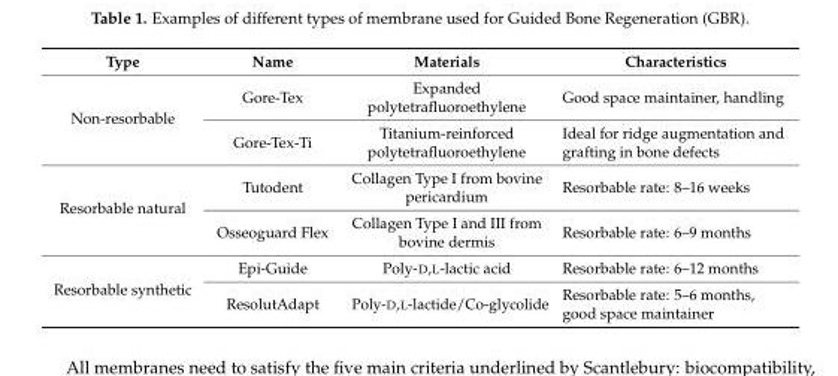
<table><thead><tr><td>Type</td><td>Name</td><td>Materials</td><td>Characteristics</td></tr></thead><tbody><tr><td rowspan="2">Non-resorbable</td><td>Gore-Tex</td><td>Expanded polytetrafluoroethylene</td><td>Good space maintainer, handling</td></tr><tr><td>Gore-Tex-Ti</td><td>Titanium-reinforced polytetrafluoroethylene</td><td>Ideal for ridge augmentation and grafting in bone defects</td></tr><tr><td rowspan="2">Resorbable natural</td><td>Tutodent</td><td>Collagen Type I from bovine pericardium</td><td>Resorbable rate: 8–16 weeks</td></tr><tr><td>Osseoguard Flex</td><td>Collagen Type I and III from bovine dermis</td><td>Resorbable rate: 6–9 months</td></tr><tr><td rowspan="2">Resorbable synthetic</td><td>Epi-Guide</td><td>Poly-D,L-lactic acid</td><td>Resorbable rate: 6–12 months</td></tr><tr><td>ResolutAdapt</td><td>Poly-D,L-lactide/Co-glycolide</td><td>Resorbable rate: 5–6 months, good space maintainer</td></tr></tbody></table>